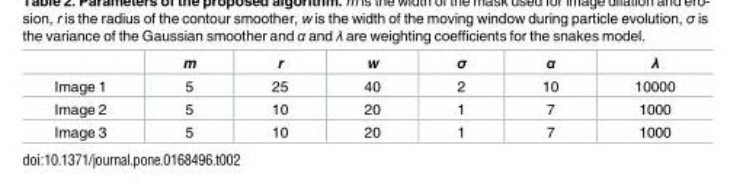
<table><thead><tr><td></td><td>m</td><td>r</td><td>w</td><td>σ</td><td>α</td><td>λ</td></tr></thead><tbody><tr><td>Image 1</td><td>5</td><td>25</td><td>40</td><td>2</td><td>10</td><td>10000</td></tr><tr><td>Image 2</td><td>5</td><td>10</td><td>20</td><td>1</td><td>7</td><td>1000</td></tr><tr><td>Image 3</td><td>5</td><td>10</td><td>20</td><td>1</td><td>7</td><td>1000</td></tr></tbody></table>